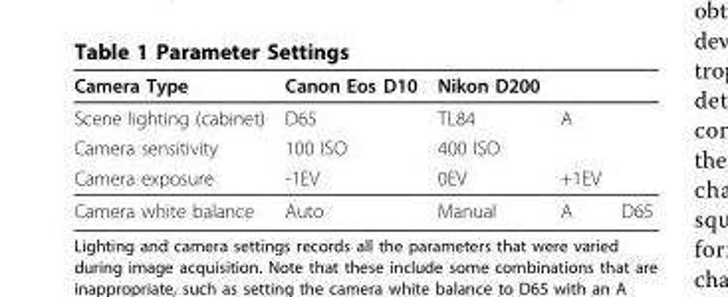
<table><thead><tr><td>Camera Type</td><td>Canon Eos D10</td><td>Nikon D200</td><td></td><td></td></tr></thead><tbody><tr><td>Scene lighting (cabinet)</td><td>D65</td><td>TL84</td><td>A</td><td></td></tr><tr><td>Camera sensitivity</td><td>100 ISO</td><td>400 ISO</td><td></td><td></td></tr><tr><td>Camera exposure</td><td>-1EV</td><td>0EV</td><td>+1EV</td><td></td></tr><tr><td>Camera white balance</td><td>Auto</td><td>Manual</td><td>A</td><td>D65</td></tr></tbody></table>